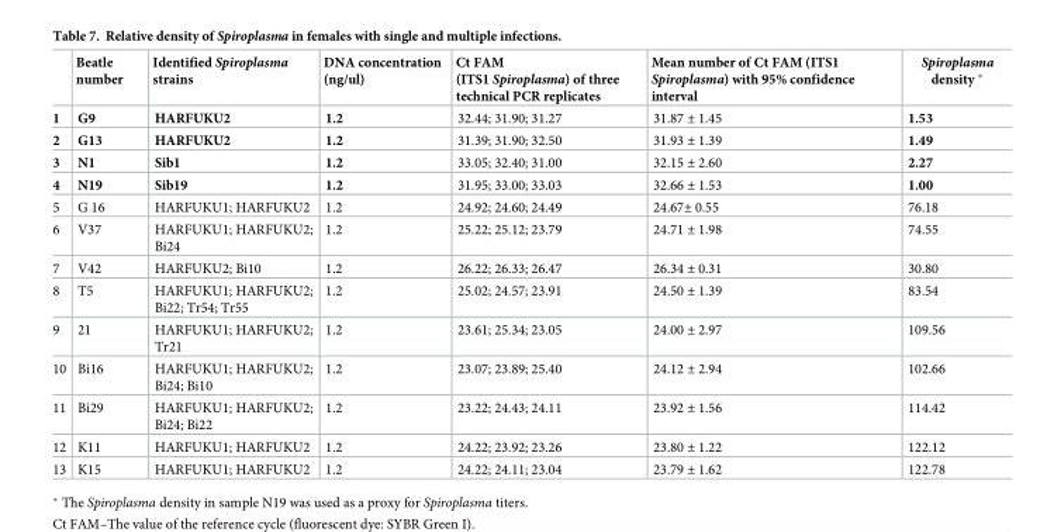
<table><thead><tr><td></td><td>Beatle number</td><td>Identified Spiroplasma strains</td><td>DNA concentration (ng/ul)</td><td>Ct FAM (ITS1 Spiroplasma) of three technical PCR replicates</td><td>Mean number of Ct FAM (ITS1 Spiroplasma) with 95% confidence interval</td><td>Spiroplasma density *</td></tr></thead><tbody><tr><td>1</td><td>G9</td><td>HARFUKU2</td><td>1.2</td><td>32.44; 31.90; 31.27</td><td>31.87 ± 1.45</td><td>1.53</td></tr><tr><td>2</td><td>G13</td><td>HARFUKU2</td><td>1.2</td><td>31.39; 31.90; 32.50</td><td>31.93 ± 1.39</td><td>1.49</td></tr><tr><td>3</td><td>N1</td><td>Sib1</td><td>1.2</td><td>33.05; 32.40; 31.00</td><td>32.15 ± 2.60</td><td>2.27</td></tr><tr><td>4</td><td>N19</td><td>Sib19</td><td>1.2</td><td>31.95; 33.00; 33.03</td><td>32.66 ± 1.53</td><td>1.00</td></tr><tr><td>5</td><td>G 16</td><td>HARFUKU1; HARFUKU2</td><td>1.2</td><td>24.92; 24.60; 24.49</td><td>24.67± 0.55</td><td>76.18</td></tr><tr><td>6</td><td>V37</td><td>HARFUKU1; HARFUKU2; Bi24</td><td>1.2</td><td>25.22; 25.12; 23.79</td><td>24.71 ± 1.98</td><td>74.55</td></tr><tr><td>7</td><td>V42</td><td>HARFUKU2; Bi10</td><td>1.2</td><td>26.22; 26.33; 26.47</td><td>26.34 ± 0.31</td><td>30.80</td></tr><tr><td>8</td><td>T5</td><td>HARFUKU1; HARFUKU2; Bi22; Tr54; Tr55</td><td>1.2</td><td>25.02; 24.57; 23.91</td><td>24.50 ± 1.39</td><td>83.54</td></tr><tr><td>9</td><td>21</td><td>HARFUKU1; HARFUKU2; Tr21</td><td>1.2</td><td>23.61; 25.34; 23.05</td><td>24.00 ± 2.97</td><td>109.56</td></tr><tr><td>10</td><td>Bi16</td><td>HARFUKU1; HARFUKU2; Bi24; Bi10</td><td>1.2</td><td>23.07; 23.89; 25.40</td><td>24.12 ± 2.94</td><td>102.66</td></tr><tr><td>11</td><td>Bi29</td><td>HARFUKU1; HARFUKU2; Bi24; Bi22</td><td>1.2</td><td>23.22; 24.43; 24.11</td><td>23.92 ± 1.56</td><td>114.42</td></tr><tr><td>12</td><td>K11</td><td>HARFUKU1; HARFUKU2</td><td>1.2</td><td>24.22; 23.92; 23.26</td><td>23.80 ± 1.22</td><td>122.12</td></tr><tr><td>13</td><td>K15</td><td>HARFUKU1; HARFUKU2</td><td>1.2</td><td>24.22; 24.11; 23.04</td><td>23.79 ± 1.62</td><td>122.78</td></tr></tbody></table>